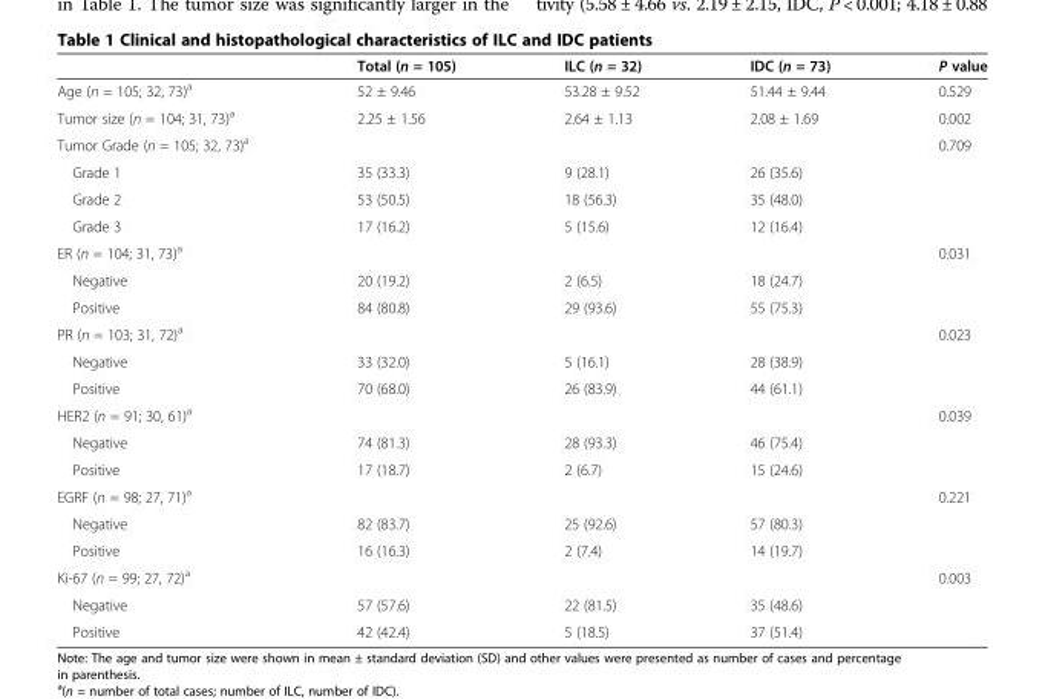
<table><thead><tr><td></td><td>Total (n = 105)</td><td>ILC (n = 32)</td><td>IDC (n = 73)</td><td>P value</td></tr></thead><tbody><tr><td>Age (n = 105; 32, 73)<sup>a</sup></td><td>52 ± 9.46</td><td>53.28 ± 9.52</td><td>51.44 ± 9.44</td><td>0.529</td></tr><tr><td>Tumor size (n = 104; 31, 73)<sup>a</sup></td><td>2.25 ± 1.56</td><td>2.64 ± 1.13</td><td>2.08 ± 1.69</td><td>0.002</td></tr><tr><td>Tumor Grade (n = 105; 32, 73)<sup>a</sup></td><td></td><td></td><td></td><td>0.709</td></tr><tr><td>Grade 1</td><td>35 (33.3)</td><td>9 (28.1)</td><td>26 (35.6)</td><td></td></tr><tr><td>Grade 2</td><td>53 (50.5)</td><td>18 (56.3)</td><td>35 (48.0)</td><td></td></tr><tr><td>Grade 3</td><td>17 (16.2)</td><td>5 (15.6)</td><td>12 (16.4)</td><td></td></tr><tr><td>ER (n = 104; 31, 73)<sup>a</sup></td><td></td><td></td><td></td><td>0.031</td></tr><tr><td>Negative</td><td>20 (19.2)</td><td>2 (6.5)</td><td>18 (24.7)</td><td></td></tr><tr><td>Positive</td><td>84 (80.8)</td><td>29 (93.6)</td><td>55 (75.3)</td><td></td></tr><tr><td>PR (n = 103; 31, 72)<sup>a</sup></td><td></td><td></td><td></td><td>0.023</td></tr><tr><td>Negative</td><td>33 (32.0)</td><td>5 (16.1)</td><td>28 (38.9)</td><td></td></tr><tr><td>Positive</td><td>70 (68.0)</td><td>26 (83.9)</td><td>44 (61.1)</td><td></td></tr><tr><td>HER2 (n = 91; 30, 61)<sup>a</sup></td><td></td><td></td><td></td><td>0.039</td></tr><tr><td>Negative</td><td>74 (81.3)</td><td>28 (93.3)</td><td>46 (75.4)</td><td></td></tr><tr><td>Positive</td><td>17 (18.7)</td><td>2 (6.7)</td><td>15 (24.6)</td><td></td></tr><tr><td>EGRF (n = 98; 27, 71)<sup>a</sup></td><td></td><td></td><td></td><td>0.221</td></tr><tr><td>Negative</td><td>82 (83.7)</td><td>25 (92.6)</td><td>57 (80.3)</td><td></td></tr><tr><td>Positive</td><td>16 (16.3)</td><td>2 (7.4)</td><td>14 (19.7)</td><td></td></tr><tr><td>Ki-67 (n = 99; 27, 72)<sup>a</sup></td><td></td><td></td><td></td><td>0.003</td></tr><tr><td>Negative</td><td>57 (57.6)</td><td>22 (81.5)</td><td>35 (48.6)</td><td></td></tr><tr><td>Positive</td><td>42 (42.4)</td><td>5 (18.5)</td><td>37 (51.4)</td><td></td></tr></tbody></table>